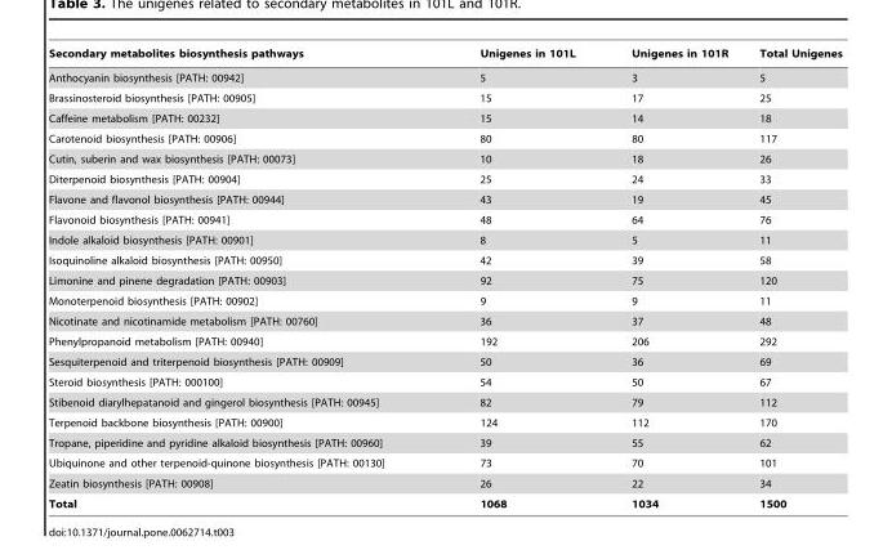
<table><thead><tr><td>Secondary metabolites biosynthesis pathways</td><td>Unigenes in 101L</td><td>Unigenes in 101R</td><td>Total Unigenes</td></tr></thead><tbody><tr><td>Anthocyanin biosynthesis [PATH: 00942]</td><td>5</td><td>3</td><td>5</td></tr><tr><td>Brassinosteroid biosynthesis [PATH: 00905]</td><td>15</td><td>17</td><td>25</td></tr><tr><td>Caffeine metabolism [PATH: 00232]</td><td>15</td><td>14</td><td>18</td></tr><tr><td>Carotenoid biosynthesis [PATH: 00906]</td><td>80</td><td>80</td><td>117</td></tr><tr><td>Cutin, suberin and wax biosynthesis [PATH: 00073]</td><td>10</td><td>18</td><td>26</td></tr><tr><td>Diterpenoid biosynthesis [PATH: 00904]</td><td>25</td><td>24</td><td>33</td></tr><tr><td>Flavone and flavonol biosynthesis [PATH: 00944]</td><td>43</td><td>19</td><td>45</td></tr><tr><td>Flavonoid biosynthesis [PATH: 00941]</td><td>48</td><td>64</td><td>76</td></tr><tr><td>Indole alkaloid biosynthesis [PATH: 00901]</td><td>8</td><td>5</td><td>11</td></tr><tr><td>Isoquinoline alkaloid biosynthesis [PATH: 00950]</td><td>42</td><td>39</td><td>58</td></tr><tr><td>Limonine and pinene degradation [PATH: 00903]</td><td>92</td><td>75</td><td>120</td></tr><tr><td>Monoterpenoid biosynthesis [PATH: 00902]</td><td>9</td><td>9</td><td>11</td></tr><tr><td>Nicotinate and nicotinamide metabolism [PATH: 00760]</td><td>36</td><td>37</td><td>48</td></tr><tr><td>Phenylpropanoid metabolism [PATH: 00940]</td><td>192</td><td>206</td><td>292</td></tr><tr><td>Sesquiterpenoid and triterpenoid biosynthesis [PATH: 00909]</td><td>50</td><td>36</td><td>69</td></tr><tr><td>Steroid biosynthesis [PATH: 000100]</td><td>54</td><td>50</td><td>67</td></tr><tr><td>Stibenoid diarylhepatanoid and gingerol biosynthesis [PATH: 00945]</td><td>82</td><td>79</td><td>112</td></tr><tr><td>Terpenoid backbone biosynthesis [PATH: 00900]</td><td>124</td><td>112</td><td>170</td></tr><tr><td>Tropane, piperidine and pyridine alkaloid biosynthesis [PATH: 00960]</td><td>39</td><td>55</td><td>62</td></tr><tr><td>Ubiquinone and other terpenoid-quinone biosynthesis [PATH: 00130]</td><td>73</td><td>70</td><td>101</td></tr><tr><td>Zeatin biosynthesis [PATH: 00908]</td><td>26</td><td>22</td><td>34</td></tr><tr><td>Total</td><td>1068</td><td>1034</td><td>1500</td></tr></tbody></table>